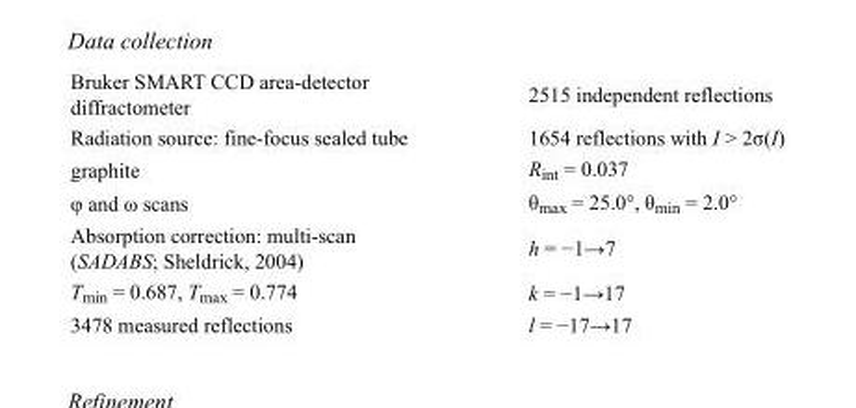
<table><tbody><tr><td>Bruker SMART CCD area-detector diffractometer</td><td>2515 independent reflections</td></tr><tr><td>Radiation source: fine-focus sealed tube</td><td>1654 reflections with I &gt; 2σ(I)</td></tr><tr><td>graphite</td><td>R<sub>int</sub> = 0.037</td></tr><tr><td>φ and ω scans</td><td>θ<sub>max</sub> = 25.0°, θ<sub>min</sub> = 2.0°</td></tr><tr><td>Absorption correction: multi-scan (SADABS; Sheldrick, 2004)</td><td>h = −1→7</td></tr><tr><td>T<sub>min</sub> = 0.687, T<sub>max</sub> = 0.774</td><td>k = −1→17</td></tr><tr><td>3478 measured reflections</td><td>l = −17→17</td></tr></tbody></table>